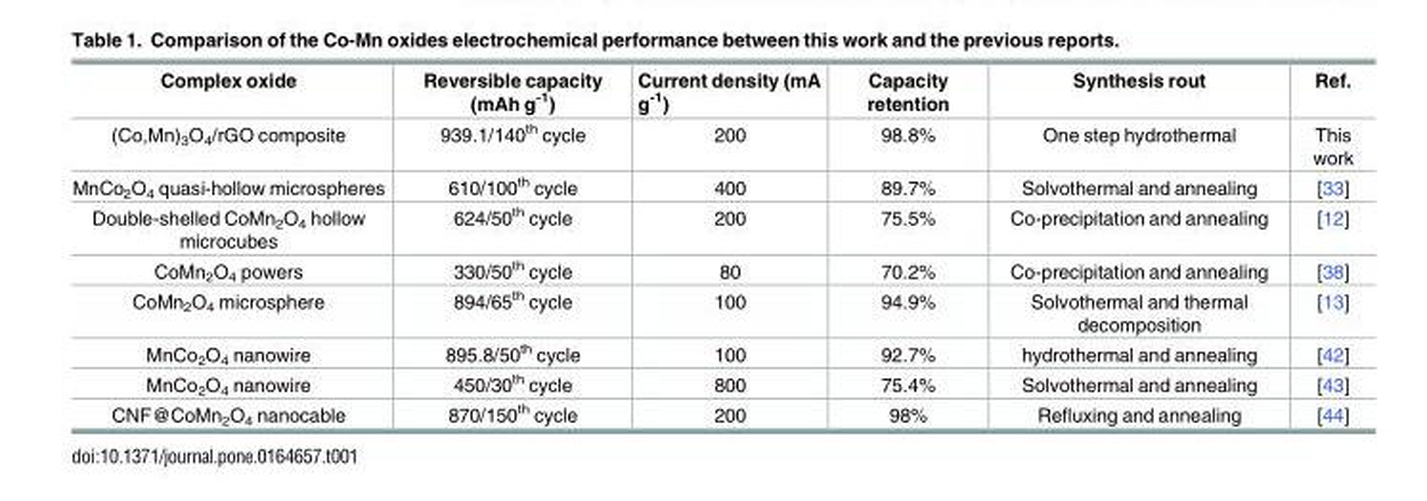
<table><thead><tr><td>Complex oxide</td><td>Reversible capacity (mAh g<sup>-1</sup>)</td><td>Current density (mA g<sup>-1</sup>)</td><td>Capacity retention</td><td>Synthesis rout</td><td>Ref.</td></tr></thead><tbody><tr><td>(Co,Mn)<sub>3</sub>O<sub>4</sub>/rGO composite</td><td>939.1/140<sup>th</sup> cycle</td><td>200</td><td>98.8%</td><td>One step hydrothermal</td><td>This work</td></tr><tr><td>MnCo<sub>2</sub>O<sub>4</sub> quasi-hollow microspheres</td><td>610/100<sup>th</sup> cycle</td><td>400</td><td>89.7%</td><td>Solvothermal and annealing</td><td>[33]</td></tr><tr><td>Double-shelled CoMn<sub>2</sub>O<sub>4</sub> hollow microcubes</td><td>624/50<sup>th</sup> cycle</td><td>200</td><td>75.5%</td><td>Co-precipitation and annealing</td><td>[12]</td></tr><tr><td>CoMn<sub>2</sub>O<sub>4</sub> powers</td><td>330/50<sup>th</sup> cycle</td><td>80</td><td>70.2%</td><td>Co-precipitation and annealing</td><td>[38]</td></tr><tr><td>CoMn<sub>2</sub>O<sub>4</sub> microsphere</td><td>894/65<sup>th</sup> cycle</td><td>100</td><td>94.9%</td><td>Solvothermal and thermal decomposition</td><td>[13]</td></tr><tr><td>MnCo<sub>2</sub>O<sub>4</sub> nanowire</td><td>895.8/50<sup>th</sup> cycle</td><td>100</td><td>92.7%</td><td>hydrothermal and annealing</td><td>[42]</td></tr><tr><td>MnCo<sub>2</sub>O<sub>4</sub> nanowire</td><td>450/30<sup>th</sup> cycle</td><td>800</td><td>75.4%</td><td>Solvothermal and annealing</td><td>[43]</td></tr><tr><td>CNF@CoMn<sub>2</sub>O<sub>4</sub> nanocable</td><td>870/150<sup>th</sup> cycle</td><td>200</td><td>98%</td><td>Refluxing and annealing</td><td>[44]</td></tr></tbody></table>